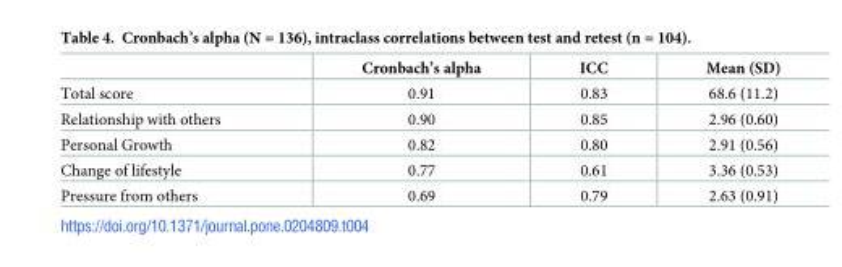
<table><thead><tr><td></td><td>Cronbach’s alpha</td><td>ICC</td><td>Mean (SD)</td></tr></thead><tbody><tr><td>Total score</td><td>0.91</td><td>0.83</td><td>68.6 (11.2)</td></tr><tr><td>Relationship with others</td><td>0.90</td><td>0.85</td><td>2.96 (0.60)</td></tr><tr><td>Personal Growth</td><td>0.82</td><td>0.80</td><td>2.91 (0.56)</td></tr><tr><td>Change of lifestyle</td><td>0.77</td><td>0.61</td><td>3.36 (0.53)</td></tr><tr><td>Pressure from others</td><td>0.69</td><td>0.79</td><td>2.63 (0.91)</td></tr></tbody></table>